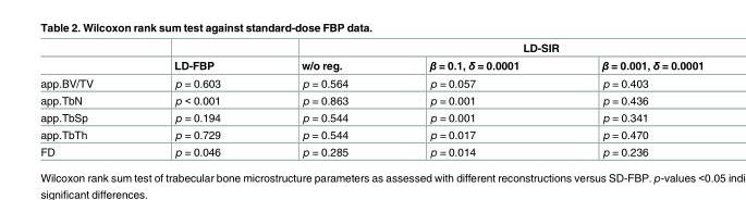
<table><thead><tr><td rowspan="2"></td><td rowspan="2">LD-FBP</td><td colspan="3">LD-SIR</td></tr><tr><td>w/o reg.</td><td>β = 0.1, δ = 0.0001</td><td>β = 0.001, δ = 0.0001</td></tr></thead><tbody><tr><td>app.BV/TV</td><td>p = 0.603</td><td>p = 0.564</td><td>p = 0.057</td><td>p = 0.403</td></tr><tr><td>app.TbN</td><td>p &lt; 0.001</td><td>p = 0.863</td><td>p = 0.001</td><td>p = 0.436</td></tr><tr><td>app.TbSp</td><td>p = 0.194</td><td>p = 0.544</td><td>p = 0.001</td><td>p = 0.341</td></tr><tr><td>app.TbTh</td><td>p = 0.729</td><td>p = 0.544</td><td>p = 0.017</td><td>p = 0.470</td></tr><tr><td>FD</td><td>p = 0.046</td><td>p = 0.285</td><td>p = 0.014</td><td>p = 0.236</td></tr></tbody></table>